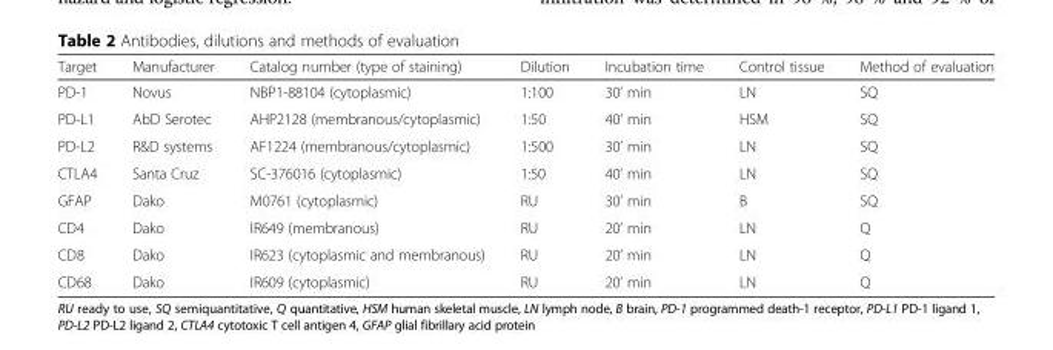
<table><thead><tr><td>Target</td><td>Manufacturer</td><td>Catalog number (type of staining)</td><td>Dilution</td><td>Incubation time</td><td>Control tissue</td><td>Method of evaluation</td></tr></thead><tbody><tr><td>PD-1</td><td>Novus</td><td>NBP1-88104 (cytoplasmic)</td><td>1:100</td><td>30’ min</td><td>LN</td><td>SQ</td></tr><tr><td>PD-L1</td><td>AbD Serotec</td><td>AHP2128 (membranous/cytoplasmic)</td><td>1:50</td><td>40’ min</td><td>HSM</td><td>SQ</td></tr><tr><td>PD-L2</td><td>R&amp;D systems</td><td>AF1224 (membranous/cytoplasmic)</td><td>1:500</td><td>30’ min</td><td>LN</td><td>SQ</td></tr><tr><td>CTLA4</td><td>Santa Cruz</td><td>SC-376016 (cytoplasmic)</td><td>1:50</td><td>40’ min</td><td>LN</td><td>SQ</td></tr><tr><td>GFAP</td><td>Dako</td><td>M0761 (cytoplasmic)</td><td>RU</td><td>30’ min</td><td>B</td><td>SQ</td></tr><tr><td>CD4</td><td>Dako</td><td>IR649 (membranous)</td><td>RU</td><td>20’ min</td><td>LN</td><td>Q</td></tr><tr><td>CD8</td><td>Dako</td><td>IR623 (cytoplasmic and membranous)</td><td>RU</td><td>20’ min</td><td>LN</td><td>Q</td></tr><tr><td>CD68</td><td>Dako</td><td>IR609 (cytoplasmic)</td><td>RU</td><td>20’ min</td><td>LN</td><td>Q</td></tr></tbody></table>